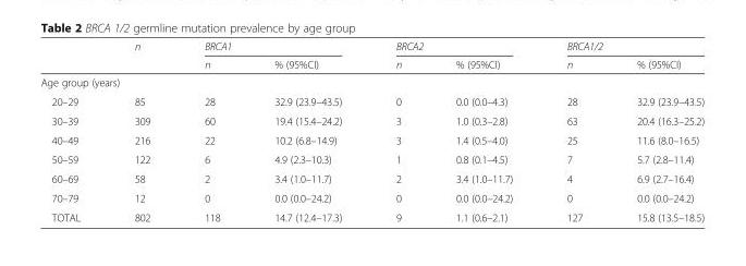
<table><thead><tr><td rowspan="2"></td><td rowspan="2">n</td><td colspan="2">BRCA1</td><td colspan="2">BRCA2</td><td colspan="2">BRCA1/2</td></tr><tr><td>n</td><td>% (95%CI)</td><td>n</td><td>% (95%CI)</td><td>n</td><td>% (95%CI)</td></tr></thead><tbody><tr><td colspan="8">Age group (years)</td></tr><tr><td>20–29</td><td>85</td><td>28</td><td>32.9 (23.9–43.5)</td><td>0</td><td>0.0 (0.0–4.3)</td><td>28</td><td>32.9 (23.9–43.5)</td></tr><tr><td>30–39</td><td>309</td><td>60</td><td>19.4 (15.4–24.2)</td><td>3</td><td>1.0 (0.3–2.8)</td><td>63</td><td>20.4 (16.3–25.2)</td></tr><tr><td>40–49</td><td>216</td><td>22</td><td>10.2 (6.8–14.9)</td><td>3</td><td>1.4 (0.5–4.0)</td><td>25</td><td>11.6 (8.0–16.5)</td></tr><tr><td>50–59</td><td>122</td><td>6</td><td>4.9 (2.3–10.3)</td><td>1</td><td>0.8 (0.1–4.5)</td><td>7</td><td>5.7 (2.8–11.4)</td></tr><tr><td>60–69</td><td>58</td><td>2</td><td>3.4 (1.0–11.7)</td><td>2</td><td>3.4 (1.0–11.7)</td><td>4</td><td>6.9 (2.7–16.4)</td></tr><tr><td>70–79</td><td>12</td><td>0</td><td>0.0 (0.0–24.2)</td><td>0</td><td>0.0 (0.0–24.2)</td><td>0</td><td>0.0 (0.0–24.2)</td></tr><tr><td>TOTAL</td><td>802</td><td>118</td><td>14.7 (12.4–17.3)</td><td>9</td><td>1.1 (0.6–2.1)</td><td>127</td><td>15.8 (13.5–18.5)</td></tr></tbody></table>